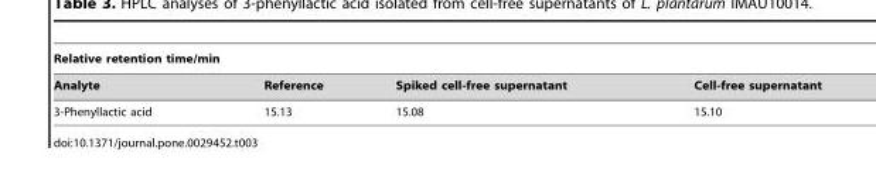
<table><thead><tr><td colspan="4">Relative retention time/min</td></tr><tr><td>Analyte</td><td>Reference</td><td>Spiked cell-free supernatant</td><td>Cell-free supernatant</td></tr></thead><tbody><tr><td>3-Phenyllactic acid</td><td>15.13</td><td>15.08</td><td>15.10</td></tr></tbody></table>